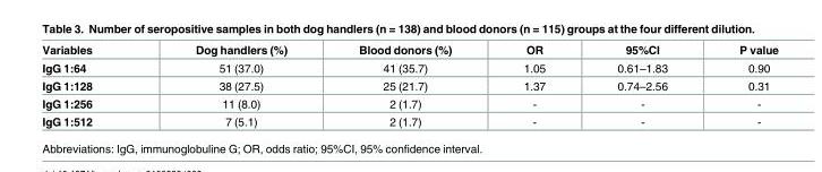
<table><thead><tr><td>Variables</td><td>Dog handlers (%)</td><td>Blood donors (%)</td><td>OR</td><td>95%CI</td><td>P value</td></tr></thead><tbody><tr><td>IgG 1:64</td><td>51 (37.0)</td><td>41 (35.7)</td><td>1.05</td><td>0.61–1.83</td><td>0.90</td></tr><tr><td>IgG 1:128</td><td>38 (27.5)</td><td>25 (21.7)</td><td>1.37</td><td>0.74–2.56</td><td>0.31</td></tr><tr><td>IgG 1:256</td><td>11 (8.0)</td><td>2 (1.7)</td><td>-</td><td>-</td><td>-</td></tr><tr><td>IgG 1:512</td><td>7 (5.1)</td><td>2 (1.7)</td><td>-</td><td>-</td><td>-</td></tr></tbody></table>